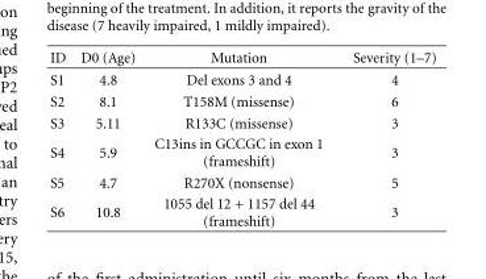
<table><thead><tr><td>ID</td><td>D0 (Age)</td><td>Mutation</td><td>Severity (1–7)</td></tr></thead><tbody><tr><td>S1</td><td>4.8</td><td>Del exons 3 and 4</td><td>4</td></tr><tr><td>S2</td><td>8.1</td><td>T158M (missense)</td><td>6</td></tr><tr><td>S3</td><td>5.11</td><td>R133C (missense)</td><td>3</td></tr><tr><td>S4</td><td>5.9</td><td>C13ins in GCCGC in exon 1 (frameshift)</td><td>3</td></tr><tr><td>S5</td><td>4.7</td><td>R270X (nonsense)</td><td>5</td></tr><tr><td>S6</td><td>10.8</td><td>1055 del 12 + 1157 del 44 (frameshift)</td><td>3</td></tr></tbody></table>